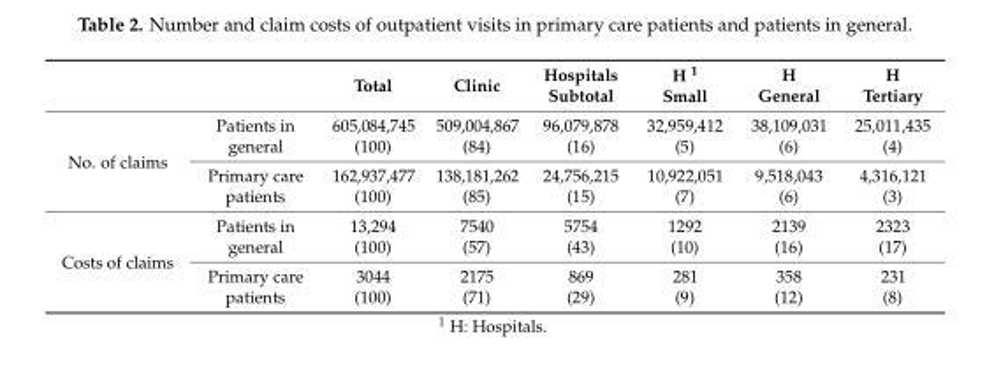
<table><thead><tr><td></td><td></td><td>Total</td><td>Clinic</td><td>Hospitals Subtotal</td><td>H <sup>1</sup> Small</td><td>H General</td><td>H Tertiary</td></tr></thead><tbody><tr><td rowspan="2">No. of claims</td><td>Patients in general</td><td>605,084,745 (100)</td><td>509,004,867 (84)</td><td>96,079,878 (16)</td><td>32,959,412 (5)</td><td>38,109,031 (6)</td><td>25,011,435 (4)</td></tr><tr><td>Primary care patients</td><td>162,937,477 (100)</td><td>138,181,262 (85)</td><td>24,756,215 (15)</td><td>10,922,051 (7)</td><td>9,518,043 (6)</td><td>4,316,121 (3)</td></tr><tr><td rowspan="2">Costs of claims</td><td>Patients in general</td><td>13,294 (100)</td><td>7540 (57)</td><td>5754 (43)</td><td>1292 (10)</td><td>2139 (16)</td><td>2323 (17)</td></tr><tr><td>Primary care patients</td><td>3044 (100)</td><td>2175 (71)</td><td>869 (29)</td><td>281 (9)</td><td>358 (12)</td><td>231 (8)</td></tr></tbody></table>